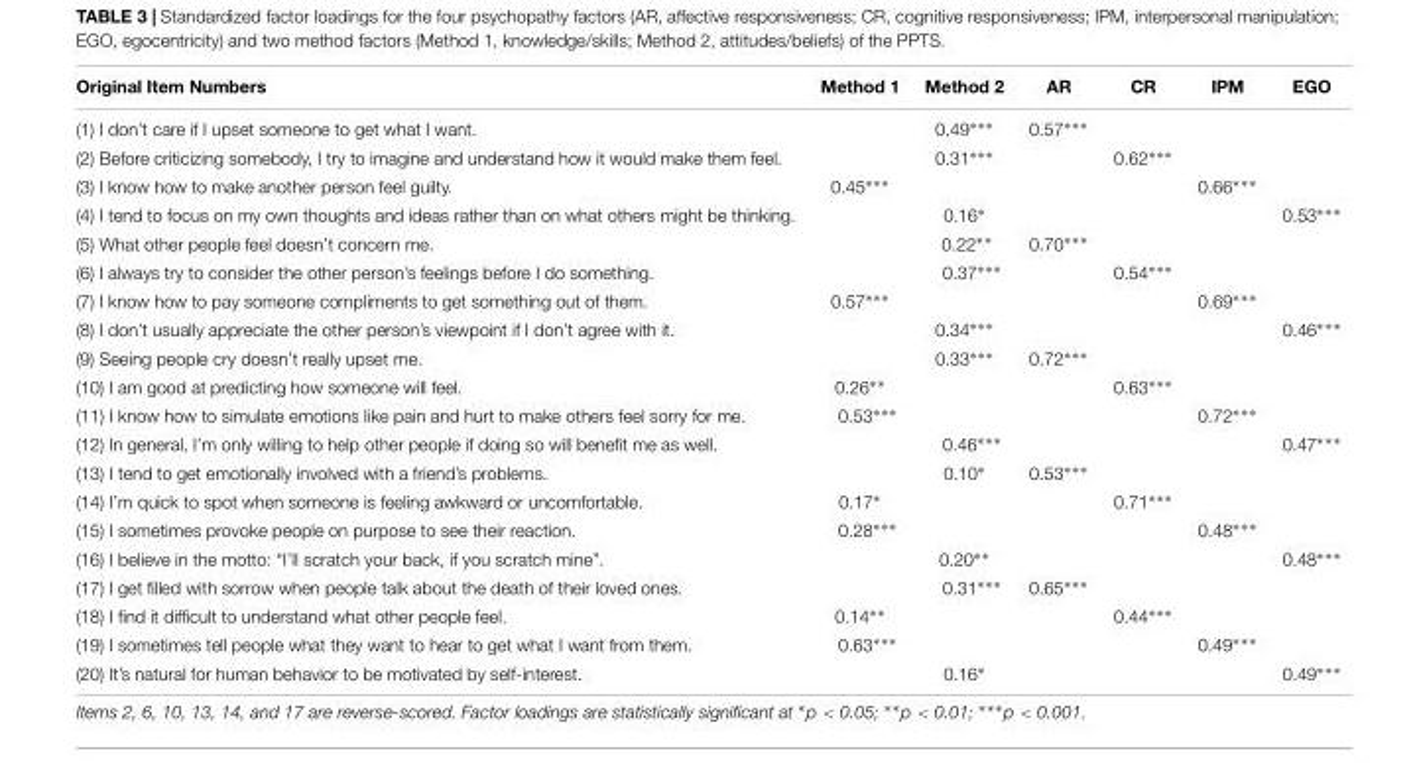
<table><thead><tr><td>Original Item Numbers</td><td>Method 1</td><td>Method 2</td><td>AR</td><td>CR</td><td>IPM</td><td>EGO</td></tr></thead><tbody><tr><td>(1) I don’t care if I upset someone to get what I want.</td><td></td><td>0.49∗∗∗</td><td>0.57∗∗∗</td><td></td><td></td><td></td></tr><tr><td>(2) Before criticizing somebody, I try to imagine and understand how it would make them feel.</td><td></td><td>0.31∗∗∗</td><td></td><td>0.62∗∗∗</td><td></td><td></td></tr><tr><td>(3) I know how to make another person feel guilty.</td><td>0.45∗∗∗</td><td></td><td></td><td></td><td>0.66∗∗∗</td><td></td></tr><tr><td>(4) I tend to focus on my own thoughts and ideas rather than on what others might be thinking.</td><td></td><td>0.16∗</td><td></td><td></td><td></td><td>0.53∗∗∗</td></tr><tr><td>(5) What other people feel doesn’t concern me.</td><td></td><td>0.22∗∗</td><td>0.70∗∗∗</td><td></td><td></td><td></td></tr><tr><td>(6) I always try to consider the other person’s feelings before I do something.</td><td></td><td>0.37∗∗∗</td><td></td><td>0.54∗∗∗</td><td></td><td></td></tr><tr><td>(7) I know how to pay someone compliments to get something out of them.</td><td>0.57∗∗∗</td><td></td><td></td><td></td><td>0.69∗∗∗</td><td></td></tr><tr><td>(8) I don’t usually appreciate the other person’s viewpoint if I don’t agree with it.</td><td></td><td>0.34∗∗∗</td><td></td><td></td><td></td><td>0.46∗∗∗</td></tr><tr><td>(9) Seeing people cry doesn’t really upset me.</td><td></td><td>0.33∗∗∗</td><td>0.72∗∗∗</td><td></td><td></td><td></td></tr><tr><td>(10) I am good at predicting how someone will feel.</td><td>0.26∗∗</td><td></td><td></td><td>0.63∗∗∗</td><td></td><td></td></tr><tr><td>(11) I know how to simulate emotions like pain and hurt to make others feel sorry for me.</td><td>0.53∗∗∗</td><td></td><td></td><td></td><td>0.72∗∗∗</td><td></td></tr><tr><td>(12) In general, I’m only willing to help other people if doing so will benefit me as well.</td><td></td><td>0.46∗∗∗</td><td></td><td></td><td></td><td>0.47∗∗∗</td></tr><tr><td>(13) I tend to get emotionally involved with a friend’s problems.</td><td></td><td>0.10∗</td><td>0.53∗∗∗</td><td></td><td></td><td></td></tr><tr><td>(14) I’m quick to spot when someone is feeling awkward or uncomfortable.</td><td>0.17∗</td><td></td><td></td><td>0.71∗∗∗</td><td></td><td></td></tr><tr><td>(15) I sometimes provoke people on purpose to see their reaction.</td><td>0.28∗∗∗</td><td></td><td></td><td></td><td>0.48∗∗∗</td><td></td></tr><tr><td>(16) I believe in the motto: “I’ll scratch your back, if you scratch mine”.</td><td></td><td>0.20∗∗</td><td></td><td></td><td></td><td>0.48∗∗∗</td></tr><tr><td>(17) I get filled with sorrow when people talk about the death of their loved ones.</td><td></td><td>0.31∗∗∗</td><td>0.65∗∗∗</td><td></td><td></td><td></td></tr><tr><td>(18) I find it difficult to understand what other people feel.</td><td>0.14∗∗</td><td></td><td></td><td>0.44∗∗∗</td><td></td><td></td></tr><tr><td>(19) I sometimes tell people what they want to hear to get what I want from them.</td><td>0.63∗∗∗</td><td></td><td></td><td></td><td>0.49∗∗∗</td><td></td></tr><tr><td>(20) It’s natural for human behavior to be motivated by self-interest.</td><td></td><td>0.16∗</td><td></td><td></td><td></td><td>0.49∗∗∗</td></tr></tbody></table>